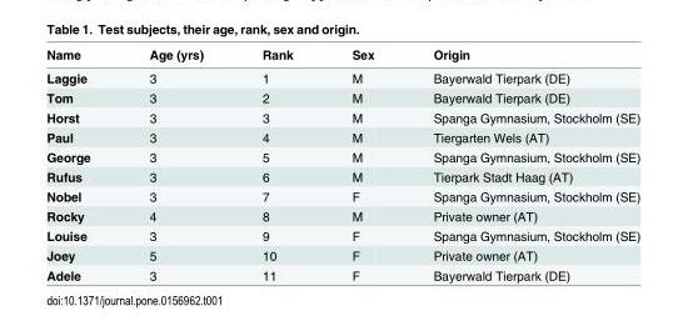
<table><thead><tr><td>Name</td><td>Age (yrs)</td><td>Rank</td><td>Sex</td><td>Origin</td></tr></thead><tbody><tr><td>Laggie</td><td>3</td><td>1</td><td>M</td><td>Bayerwald Tierpark (DE)</td></tr><tr><td>Tom</td><td>3</td><td>2</td><td>M</td><td>Bayerwald Tierpark (DE)</td></tr><tr><td>Horst</td><td>3</td><td>3</td><td>M</td><td>Spanga Gymnasium, Stockholm (SE)</td></tr><tr><td>Paul</td><td>3</td><td>4</td><td>M</td><td>Tiergarten Wels (AT)</td></tr><tr><td>George</td><td>3</td><td>5</td><td>M</td><td>Spanga Gymnasium, Stockholm (SE)</td></tr><tr><td>Rufus</td><td>3</td><td>6</td><td>M</td><td>Tierpark Stadt Haag (AT)</td></tr><tr><td>Nobel</td><td>3</td><td>7</td><td>F</td><td>Spanga Gymnasium, Stockholm (SE)</td></tr><tr><td>Rocky</td><td>4</td><td>8</td><td>M</td><td>Private owner (AT)</td></tr><tr><td>Louise</td><td>3</td><td>9</td><td>F</td><td>Spanga Gymnasium, Stockholm (SE)</td></tr><tr><td>Joey</td><td>5</td><td>10</td><td>F</td><td>Private owner (AT)</td></tr><tr><td>Adele</td><td>3</td><td>11</td><td>F</td><td>Bayerwald Tierpark (DE)</td></tr></tbody></table>